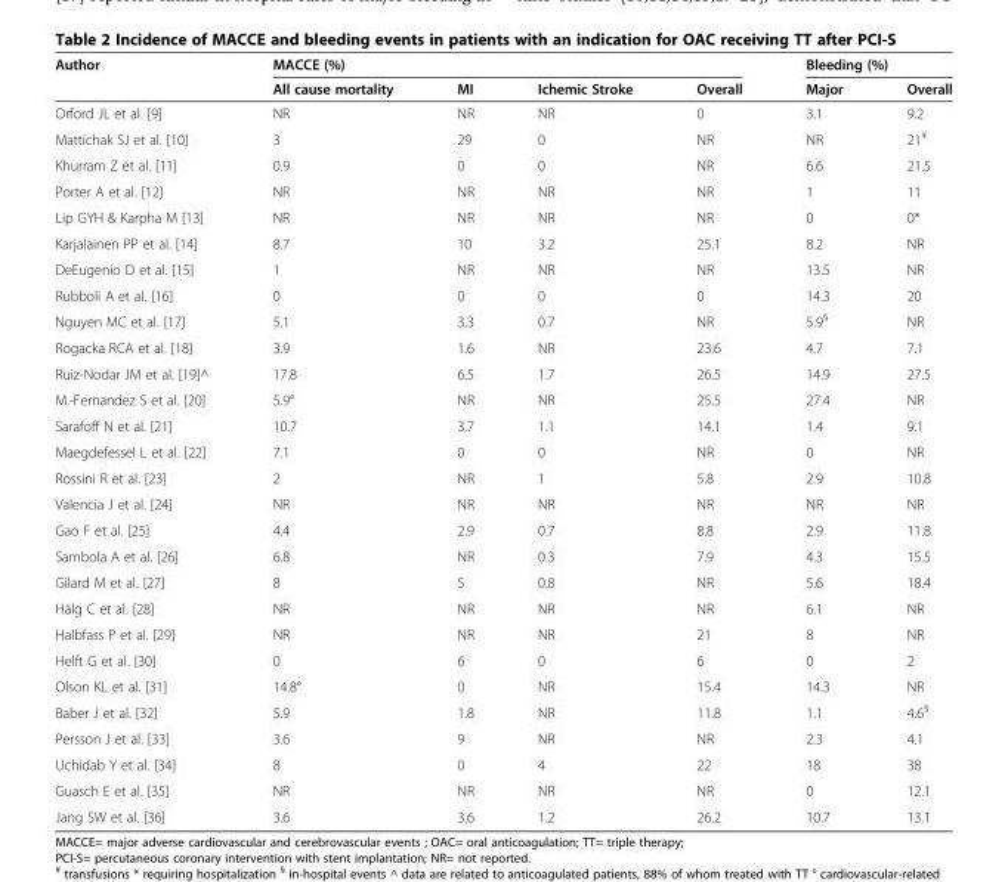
<table><thead><tr><td rowspan="2">Author</td><td colspan="4">MACCE (%)</td><td colspan="2">Bleeding (%)</td></tr><tr><td>All cause mortality</td><td>MI</td><td>Ichemic Stroke</td><td>Overall</td><td>Major</td><td>Overall</td></tr></thead><tbody><tr><td>Orford JL et al. [9]</td><td>NR</td><td>NR</td><td>NR</td><td>0</td><td>3.1</td><td>9.2</td></tr><tr><td>Mattichak SJ et al. [10]</td><td>3</td><td>29</td><td>0</td><td>NR</td><td>NR</td><td>21<sup>¥</sup></td></tr><tr><td>Khurram Z et al. [11]</td><td>0.9</td><td>0</td><td>0</td><td>NR</td><td>6.6</td><td>21.5</td></tr><tr><td>Porter A et al. [12]</td><td>NR</td><td>NR</td><td>NR</td><td>NR</td><td>1</td><td>11</td></tr><tr><td>Lip GYH &amp; Karpha M [13]</td><td>NR</td><td>NR</td><td>NR</td><td>NR</td><td>0</td><td>0*</td></tr><tr><td>Karjalainen PP et al. [14]</td><td>8.7</td><td>10</td><td>3.2</td><td>25.1</td><td>8.2</td><td>NR</td></tr><tr><td>DeEugenio D et al. [15]</td><td>1</td><td>NR</td><td>NR</td><td>NR</td><td>13.5</td><td>NR</td></tr><tr><td>Rubboli A et al. [16]</td><td>0</td><td>0</td><td>0</td><td>0</td><td>14.3</td><td>20</td></tr><tr><td>Nguyen MC et al. [17]</td><td>5.1</td><td>3.3</td><td>0.7</td><td>NR</td><td>5.9<sup>§</sup></td><td>NR</td></tr><tr><td>Rogacka RCA et al. [18]</td><td>3.9</td><td>1.6</td><td>NR</td><td>23.6</td><td>4.7</td><td>7.1</td></tr><tr><td>Ruiz-Nodar JM et al. [19]^</td><td>17.8</td><td>6.5</td><td>1.7</td><td>26.5</td><td>14.9</td><td>27.5</td></tr><tr><td>M.-Fernandez S et al. [20]</td><td>5.9°</td><td>NR</td><td>NR</td><td>25.5</td><td>27.4</td><td>NR</td></tr><tr><td>Sarafoff N et al. [21]</td><td>10.7</td><td>3.7</td><td>1.1</td><td>14.1</td><td>1.4</td><td>9.1</td></tr><tr><td>Maegdefessel L et al. [22]</td><td>7.1</td><td>0</td><td>0</td><td>NR</td><td>0</td><td>NR</td></tr><tr><td>Rossini R et al. [23]</td><td>2</td><td>NR</td><td>1</td><td>5.8</td><td>2.9</td><td>10.8</td></tr><tr><td>Valencia J et al. [24]</td><td>NR</td><td>NR</td><td>NR</td><td>NR</td><td>NR</td><td>NR</td></tr><tr><td>Gao F et al. [25]</td><td>4.4</td><td>2.9</td><td>0.7</td><td>8.8</td><td>2.9</td><td>11.8</td></tr><tr><td>Sambola A et al. [26]</td><td>6.8</td><td>NR</td><td>0.3</td><td>7.9</td><td>4.3</td><td>15.5</td></tr><tr><td>Gilard M et al. [27]</td><td>8</td><td>5</td><td>0.8</td><td>NR</td><td>5.6</td><td>18.4</td></tr><tr><td>Hälg C et al. [28]</td><td>NR</td><td>NR</td><td>NR</td><td>NR</td><td>6.1</td><td>NR</td></tr><tr><td>Halbfass P et al. [29]</td><td>NR</td><td>NR</td><td>NR</td><td>21</td><td>8</td><td>NR</td></tr><tr><td>Helft G et al. [30]</td><td>0</td><td>6</td><td>0</td><td>6</td><td>0</td><td>2</td></tr><tr><td>Olson KL et al. [31]</td><td>14.8°</td><td>0</td><td>NR</td><td>15.4</td><td>14.3</td><td>NR</td></tr><tr><td>Baber J et al. [32]</td><td>5.9</td><td>1.8</td><td>NR</td><td>11.8</td><td>1.1</td><td>4.6<sup>§</sup></td></tr><tr><td>Persson J et al. [33]</td><td>3.6</td><td>9</td><td>NR</td><td>NR</td><td>2.3</td><td>4.1</td></tr><tr><td>Uchidab Y et al. [34]</td><td>8</td><td>0</td><td>4</td><td>22</td><td>18</td><td>38</td></tr><tr><td>Guasch E et al. [35]</td><td>NR</td><td>NR</td><td>NR</td><td>NR</td><td>0</td><td>12.1</td></tr><tr><td>Jang SW et al. [36]</td><td>3.6</td><td>3.6</td><td>1.2</td><td>26.2</td><td>10.7</td><td>13.1</td></tr></tbody></table>